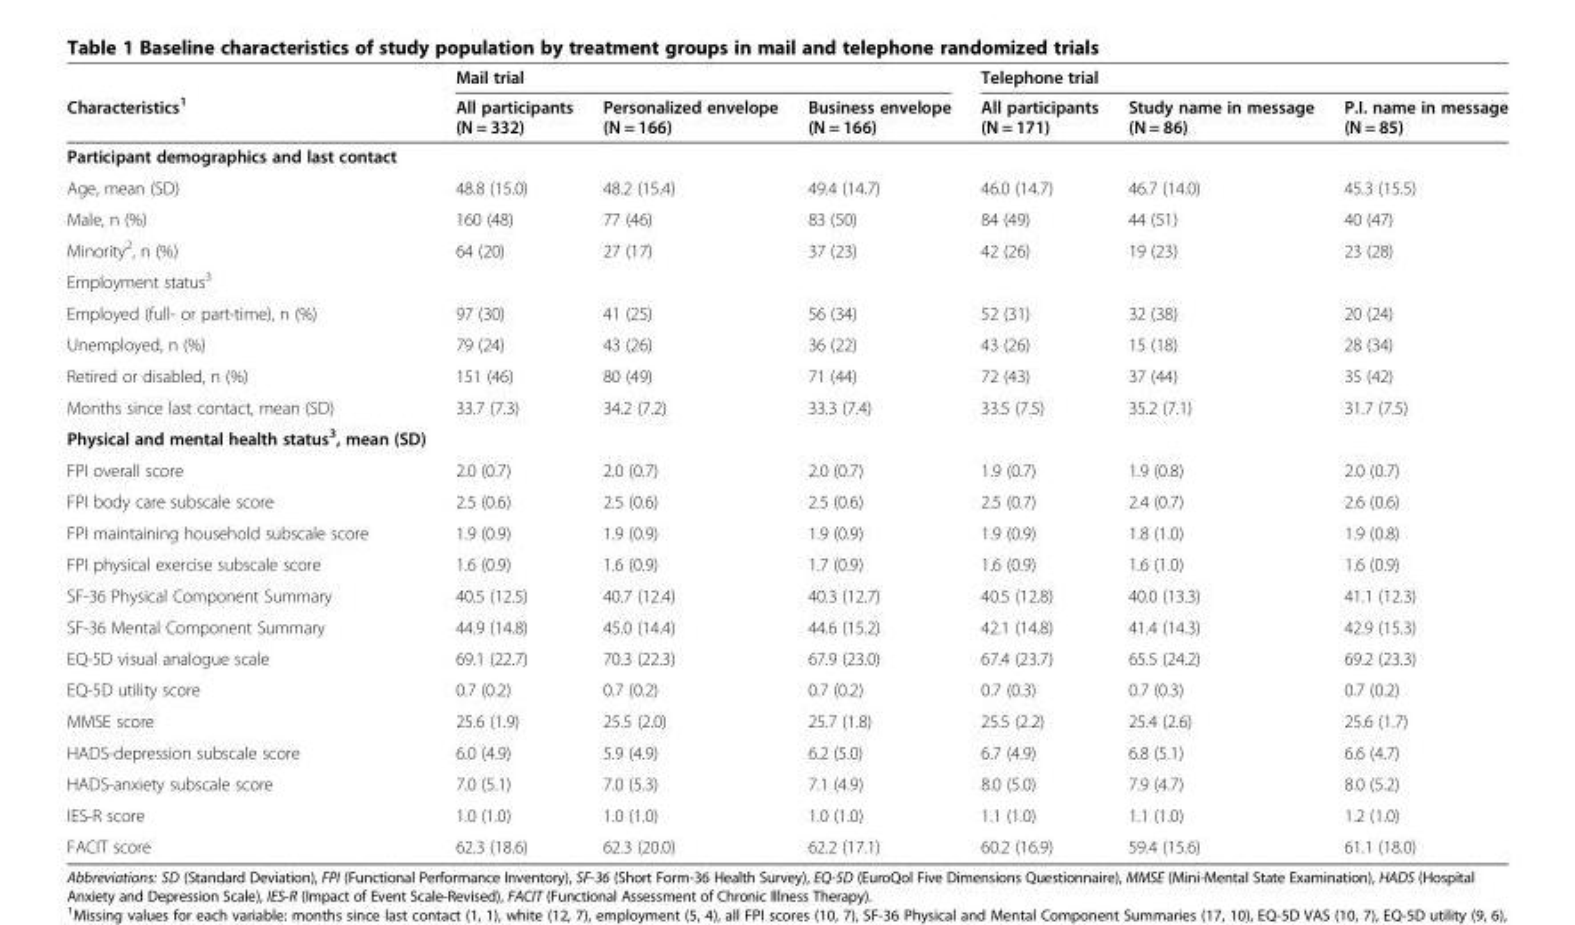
<table><thead><tr><td rowspan="2">Characteristics<sup>1</sup></td><td colspan="3">Mail trial</td><td colspan="3">Telephone trial</td></tr><tr><td>All participants (N = 332)</td><td>Personalized envelope (N = 166)</td><td>Business envelope (N = 166)</td><td>All participants (N = 171)</td><td>Study name in message (N = 86)</td><td>P.I. name in message (N = 85)</td></tr></thead><tbody><tr><td colspan="7">Participant demographics and last contact</td></tr><tr><td>Age, mean (SD)</td><td>48.8 (15.0)</td><td>48.2 (15.4)</td><td>49.4 (14.7)</td><td>46.0 (14.7)</td><td>46.7 (14.0)</td><td>45.3 (15.5)</td></tr><tr><td>Male, n (%)</td><td>160 (48)</td><td>77 (46)</td><td>83 (50)</td><td>84 (49)</td><td>44 (51)</td><td>40 (47)</td></tr><tr><td>Minority<sup>2</sup>, n (%)</td><td>64 (20)</td><td>27 (17)</td><td>37 (23)</td><td>42 (26)</td><td>19 (23)</td><td>23 (28)</td></tr><tr><td colspan="7">Employment status<sup>3</sup></td></tr><tr><td>Employed (full- or part-time), n (%)</td><td>97 (30)</td><td>41 (25)</td><td>56 (34)</td><td>52 (31)</td><td>32 (38)</td><td>20 (24)</td></tr><tr><td>Unemployed, n (%)</td><td>79 (24)</td><td>43 (26)</td><td>36 (22)</td><td>43 (26)</td><td>15 (18)</td><td>28 (34)</td></tr><tr><td>Retired or disabled, n (%)</td><td>151 (46)</td><td>80 (49)</td><td>71 (44)</td><td>72 (43)</td><td>37 (44)</td><td>35 (42)</td></tr><tr><td>Months since last contact, mean (SD)</td><td>33.7 (7.3)</td><td>34.2 (7.2)</td><td>33.3 (7.4)</td><td>33.5 (7.5)</td><td>35.2 (7.1)</td><td>31.7 (7.5)</td></tr><tr><td colspan="7">Physical and mental health status<sup>3</sup>, mean (SD)</td></tr><tr><td>FPI overall score</td><td>2.0 (0.7)</td><td>2.0 (0.7)</td><td>2.0 (0.7)</td><td>1.9 (0.7)</td><td>1.9 (0.8)</td><td>2.0 (0.7)</td></tr><tr><td>FPI body care subscale score</td><td>2.5 (0.6)</td><td>2.5 (0.6)</td><td>2.5 (0.6)</td><td>2.5 (0.7)</td><td>2.4 (0.7)</td><td>2.6 (0.6)</td></tr><tr><td>FPI maintaining household subscale score</td><td>1.9 (0.9)</td><td>1.9 (0.9)</td><td>1.9 (0.9)</td><td>1.9 (0.9)</td><td>1.8 (1.0)</td><td>1.9 (0.8)</td></tr><tr><td>FPI physical exercise subscale score</td><td>1.6 (0.9)</td><td>1.6 (0.9)</td><td>1.7 (0.9)</td><td>1.6 (0.9)</td><td>1.6 (1.0)</td><td>1.6 (0.9)</td></tr><tr><td>SF-36 Physical Component Summary</td><td>40.5 (12.5)</td><td>40.7 (12.4)</td><td>40.3 (12.7)</td><td>40.5 (12.8)</td><td>40.0 (13.3)</td><td>41.1 (12.3)</td></tr><tr><td>SF-36 Mental Component Summary</td><td>44.9 (14.8)</td><td>45.0 (14.4)</td><td>44.6 (15.2)</td><td>42.1 (14.8)</td><td>41.4 (14.3)</td><td>42.9 (15.3)</td></tr><tr><td>EQ-5D visual analogue scale</td><td>69.1 (22.7)</td><td>70.3 (22.3)</td><td>67.9 (23.0)</td><td>67.4 (23.7)</td><td>65.5 (24.2)</td><td>69.2 (23.3)</td></tr><tr><td>EQ-5D utility score</td><td>0.7 (0.2)</td><td>0.7 (0.2)</td><td>0.7 (0.2)</td><td>0.7 (0.3)</td><td>0.7 (0.3)</td><td>0.7 (0.2)</td></tr><tr><td>MMSE score</td><td>25.6 (1.9)</td><td>25.5 (2.0)</td><td>25.7 (1.8)</td><td>25.5 (2.2)</td><td>25.4 (2.6)</td><td>25.6 (1.7)</td></tr><tr><td>HADS-depression subscale score</td><td>6.0 (4.9)</td><td>5.9 (4.9)</td><td>6.2 (5.0)</td><td>6.7 (4.9)</td><td>6.8 (5.1)</td><td>6.6 (4.7)</td></tr><tr><td>HADS-anxiety subscale score</td><td>7.0 (5.1)</td><td>7.0 (5.3)</td><td>7.1 (4.9)</td><td>8.0 (5.0)</td><td>7.9 (4.7)</td><td>8.0 (5.2)</td></tr><tr><td>IES-R score</td><td>1.0 (1.0)</td><td>1.0 (1.0)</td><td>1.0 (1.0)</td><td>1.1 (1.0)</td><td>1.1 (1.0)</td><td>1.2 (1.0)</td></tr><tr><td>FACIT score</td><td>62.3 (18.6)</td><td>62.3 (20.0)</td><td>62.2 (17.1)</td><td>60.2 (16.9)</td><td>59.4 (15.6)</td><td>61.1 (18.0)</td></tr></tbody></table>